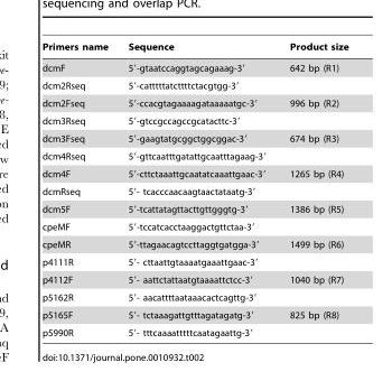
<table><thead><tr><td>Primers name</td><td>Sequence</td><td>Product size</td></tr></thead><tbody><tr><td>dcmF</td><td>5′-gtaatccaggtagcagaaag-3′</td><td>642 bp (R1)</td></tr><tr><td>dcm2Rseq</td><td>5′-catttttatcttttctacgtgg-3′</td><td></td></tr><tr><td>dcm2Fseq</td><td>5′-ccacgtagaaaagataaaaatgc-3′</td><td>996 bp (R2)</td></tr><tr><td>dcm3Rseq</td><td>5′-gtccgccagccgcatacttc-3′</td><td></td></tr><tr><td>dcm3Fseq</td><td>5′-gaagtatgcggctggcggac-3′</td><td>674 bp (R3)</td></tr><tr><td>dcm4Rseq</td><td>5′-gttcaatttgatattgcaatttagaag-3′</td><td></td></tr><tr><td>dcm4F</td><td>5′-cttctaaattgcaatatcaaattgaac-3′</td><td>1265 bp (R4)</td></tr><tr><td>dcmRseq</td><td>5′- tcacccaacaagtaactataatg-3′</td><td></td></tr><tr><td>dcm5F</td><td>5′-tcattatagttacttgttgggtg-3′</td><td>1386 bp (R5)</td></tr><tr><td>cpeMF</td><td>5′-tccatcacctaaggactgttctaa-3′</td><td></td></tr><tr><td>cpeMR</td><td>5′-ttagaacagtccttaggtgatgga-3′</td><td>1499 bp (R6)</td></tr><tr><td>p4111R</td><td>5′- cttaattgtaaaatgaaattgaac-3′</td><td></td></tr><tr><td>p4112F</td><td>5′- aattctattaatgtaaaattctcc-3′</td><td>1040 bp (R7)</td></tr><tr><td>p5162R</td><td>5′- aacattttaataaacactcagttg-3′</td><td></td></tr><tr><td>p5165F</td><td>5′- tctaaagattgtttagatagatg-3′</td><td>825 bp (R8)</td></tr><tr><td>p5990R</td><td>5′- tttcaaaatttttcaatagaattg-3′</td><td></td></tr></tbody></table>